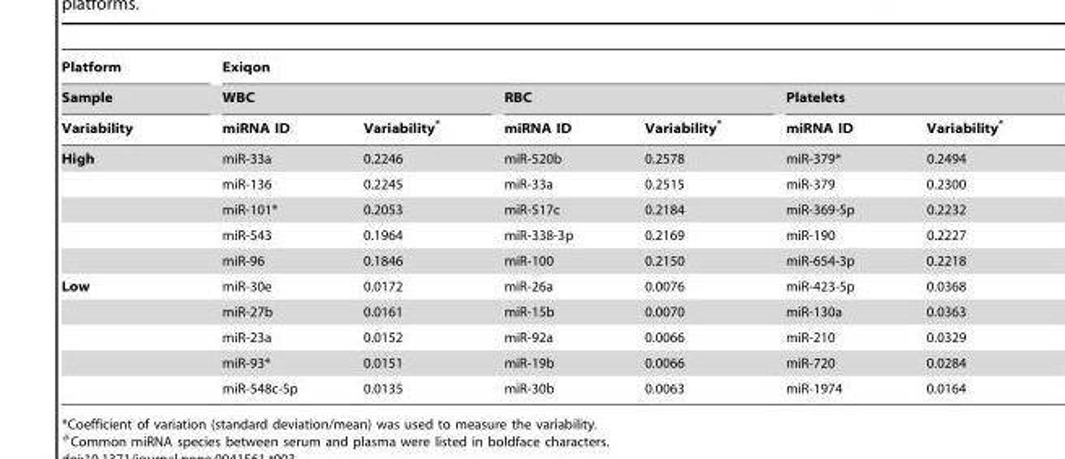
<table><thead><tr><td rowspan="3">Platform Sample Variability</td><td colspan="6">Exiqon</td></tr><tr><td colspan="2">WBC</td><td colspan="2">RBC</td><td colspan="2">Platelets</td></tr><tr><td>miRNA ID</td><td>Variability*</td><td>miRNA ID</td><td>Variability*</td><td>miRNA ID</td><td>Variability*</td></tr></thead><tbody><tr><td rowspan="5">High</td><td>miR-33a</td><td>0.2246</td><td>miR-520b</td><td>0.2578</td><td>miR-379*</td><td>0.2494</td></tr><tr><td>miR-136</td><td>0.2245</td><td>miR-33a</td><td>0.2515</td><td>miR-379</td><td>0.2300</td></tr><tr><td>miR-101*</td><td>0.2053</td><td>miR-517c</td><td>0.2184</td><td>miR-369-5p</td><td>0.2232</td></tr><tr><td>miR-543</td><td>0.1964</td><td>miR-338-3p</td><td>0.2169</td><td>miR-190</td><td>0.2227</td></tr><tr><td>miR-96</td><td>0.1846</td><td>miR-100</td><td>0.2150</td><td>miR-654-3p</td><td>0.2218</td></tr><tr><td rowspan="5">Low</td><td>miR-30e</td><td>0.0172</td><td>miR-26a</td><td>0.0076</td><td>miR-423-5p</td><td>0.0368</td></tr><tr><td>miR-27b</td><td>0.0161</td><td>miR-15b</td><td>0.0070</td><td>miR-130a</td><td>0.0363</td></tr><tr><td>miR-23a</td><td>0.0152</td><td>miR-92a</td><td>0.0066</td><td>miR-210</td><td>0.0329</td></tr><tr><td>miR-93*</td><td>0.0151</td><td>miR-19b</td><td>0.0066</td><td>miR-720</td><td>0.0284</td></tr><tr><td>miR-548c-5p</td><td>0.0135</td><td>miR-30b</td><td>0.0063</td><td>miR-1974</td><td>0.0164</td></tr></tbody></table>